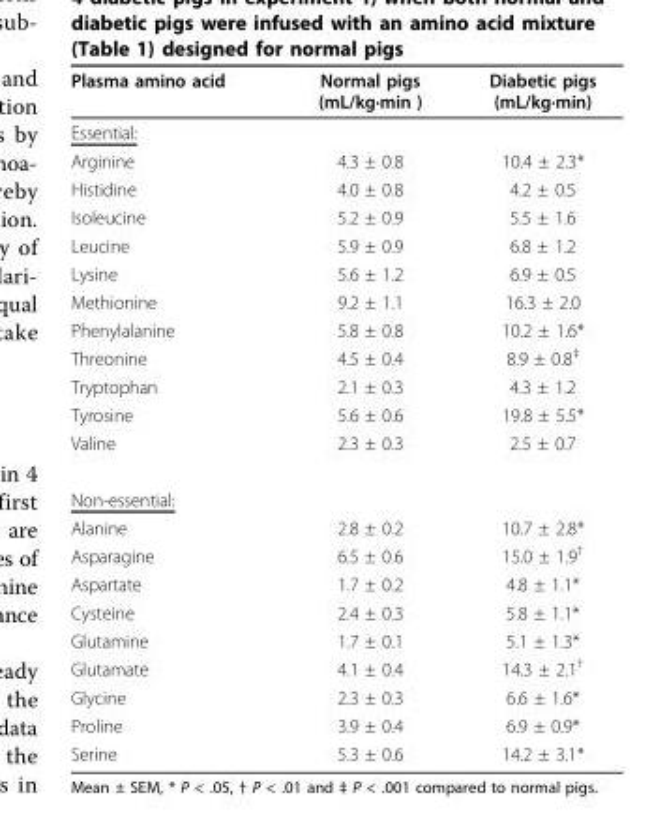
<table><thead><tr><td>Plasma amino acid</td><td>Normal pigs (mL/kg·min )</td><td>Diabetic pigs (mL/kg·min)</td></tr></thead><tbody><tr><td colspan="3">Essential:</td></tr><tr><td>Arginine</td><td>4.3 ± 0.8</td><td>10.4 ± 2.3*</td></tr><tr><td>Histidine</td><td>4.0 ± 0.8</td><td>4.2 ± 0.5</td></tr><tr><td>Isoleucine</td><td>5.2 ± 0.9</td><td>5.5 ± 1.6</td></tr><tr><td>Leucine</td><td>5.9 ± 0.9</td><td>6.8 ± 1.2</td></tr><tr><td>Lysine</td><td>5.6 ± 1.2</td><td>6.9 ± 0.5</td></tr><tr><td>Methionine</td><td>9.2 ± 1.1</td><td>16.3 ± 2.0</td></tr><tr><td>Phenylalanine</td><td>5.8 ± 0.8</td><td>10.2 ± 1.6*</td></tr><tr><td>Threonine</td><td>4.5 ± 0.4</td><td>8.9 ± 0.8<sup>‡</sup></td></tr><tr><td>Tryptophan</td><td>2.1 ± 0.3</td><td>4.3 ± 1.2</td></tr><tr><td>Tyrosine</td><td>5.6 ± 0.6</td><td>19.8 ± 5.5*</td></tr><tr><td>Valine</td><td>2.3 ± 0.3</td><td>2.5 ± 0.7</td></tr><tr><td colspan="3">Non-essential:</td></tr><tr><td>Alanine</td><td>2.8 ± 0.2</td><td>10.7 ± 2.8*</td></tr><tr><td>Asparagine</td><td>6.5 ± 0.6</td><td>15.0 ± 1.9<sup>†</sup></td></tr><tr><td>Aspartate</td><td>1.7 ± 0.2</td><td>4.8 ± 1.1*</td></tr><tr><td>Cysteine</td><td>2.4 ± 0.3</td><td>5.8 ± 1.1*</td></tr><tr><td>Glutamine</td><td>1.7 ± 0.1</td><td>5.1 ± 1.3*</td></tr><tr><td>Glutamate</td><td>4.1 ± 0.4</td><td>14.3 ± 2.1<sup>†</sup></td></tr><tr><td>Glycine</td><td>2.3 ± 0.3</td><td>6.6 ± 1.6*</td></tr><tr><td>Proline</td><td>3.9 ± 0.4</td><td>6.9 ± 0.9*</td></tr><tr><td>Serine</td><td>5.3 ± 0.6</td><td>14.2 ± 3.1*</td></tr></tbody></table>